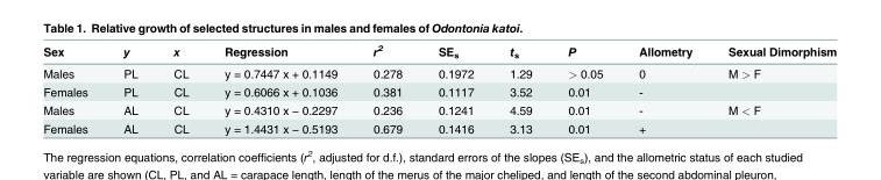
<table><thead><tr><td>Sex</td><td>y</td><td>x</td><td>Regression</td><td>r<sup>2</sup></td><td>SE<sub>s</sub></td><td>t<sub>s</sub></td><td>P</td><td>Allometry</td><td>Sexual Dimorphism</td></tr></thead><tbody><tr><td>Males</td><td>PL</td><td>CL</td><td>y = 0.7447 x + 0.1149</td><td>0.278</td><td>0.1972</td><td>1.29</td><td>&gt; 0.05</td><td>0</td><td>M &gt; F</td></tr><tr><td>Females</td><td>PL</td><td>CL</td><td>y = 0.6066 x + 0.1036</td><td>0.381</td><td>0.1117</td><td>3.52</td><td>0.01</td><td>-</td><td></td></tr><tr><td>Males</td><td>AL</td><td>CL</td><td>y = 0.4310 x − 0.2297</td><td>0.236</td><td>0.1241</td><td>4.59</td><td>0.01</td><td>-</td><td>M &lt; F</td></tr><tr><td>Females</td><td>AL</td><td>CL</td><td>y = 1.4431 x − 0.5193</td><td>0.679</td><td>0.1416</td><td>3.13</td><td>0.01</td><td>+</td><td></td></tr></tbody></table>